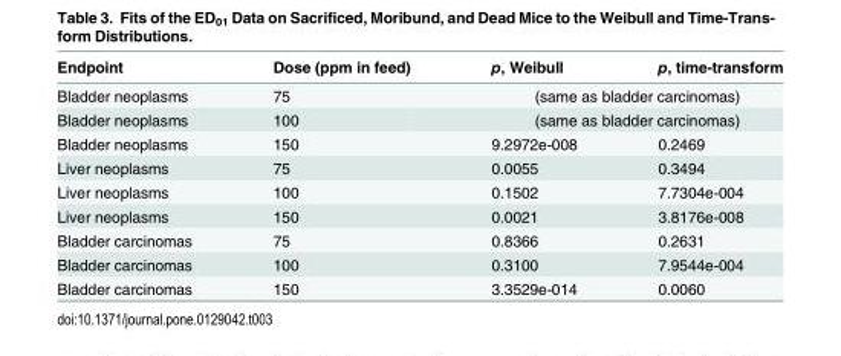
<table><thead><tr><td>Endpoint</td><td>Dose (ppm in feed)</td><td>p, Weibull</td><td>p, time-transform</td></tr></thead><tbody><tr><td>Bladder neoplasms</td><td>75</td><td colspan="2">(same as bladder carcinomas)</td></tr><tr><td>Bladder neoplasms</td><td>100</td><td colspan="2">(same as bladder carcinomas)</td></tr><tr><td>Bladder neoplasms</td><td>150</td><td>9.2972e-008</td><td>0.2469</td></tr><tr><td>Liver neoplasms</td><td>75</td><td>0.0055</td><td>0.3494</td></tr><tr><td>Liver neoplasms</td><td>100</td><td>0.1502</td><td>7.7304e-004</td></tr><tr><td>Liver neoplasms</td><td>150</td><td>0.0021</td><td>3.8176e-008</td></tr><tr><td>Bladder carcinomas</td><td>75</td><td>0.8366</td><td>0.2631</td></tr><tr><td>Bladder carcinomas</td><td>100</td><td>0.3100</td><td>7.9544e-004</td></tr><tr><td>Bladder carcinomas</td><td>150</td><td>3.3529e-014</td><td>0.0060</td></tr></tbody></table>